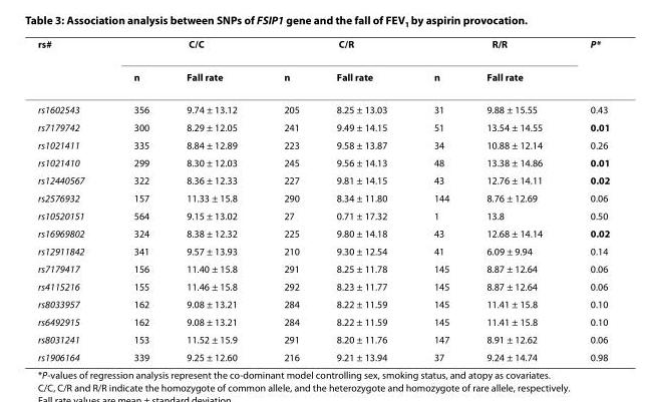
<table><thead><tr><td rowspan="2">rs#</td><td colspan="2">C/C</td><td colspan="2">C/R</td><td colspan="2">R/R</td><td rowspan="2">P*</td></tr><tr><td>n</td><td>Fall rate</td><td>n</td><td>Fall rate</td><td>n</td><td>Fall rate</td></tr></thead><tbody><tr><td>rs1602543</td><td>356</td><td>9.74 ± 13.12</td><td>205</td><td>8.25 ± 13.03</td><td>31</td><td>9.88 ± 15.55</td><td>0.43</td></tr><tr><td>rs7179742</td><td>300</td><td>8.29 ± 12.05</td><td>241</td><td>9.49 ± 14.15</td><td>51</td><td>13.54 ± 14.55</td><td>0.01</td></tr><tr><td>rs1021411</td><td>335</td><td>8.84 ± 12.89</td><td>223</td><td>9.58 ± 13.87</td><td>34</td><td>10.88 ± 12.14</td><td>0.26</td></tr><tr><td>rs1021410</td><td>299</td><td>8.30 ± 12.03</td><td>245</td><td>9.56 ± 14.13</td><td>48</td><td>13.38 ± 14.86</td><td>0.01</td></tr><tr><td>rs12440567</td><td>322</td><td>8.36 ± 12.33</td><td>227</td><td>9.81 ± 14.15</td><td>43</td><td>12.76 ± 14.11</td><td>0.02</td></tr><tr><td>rs2576932</td><td>157</td><td>11.33 ± 15.8</td><td>290</td><td>8.34 ± 11.80</td><td>144</td><td>8.76 ± 12.69</td><td>0.06</td></tr><tr><td>rs10520151</td><td>564</td><td>9.15 ± 13.02</td><td>27</td><td>0.71 ± 17.32</td><td>1</td><td>13.8</td><td>0.50</td></tr><tr><td>rs16969802</td><td>324</td><td>8.38 ± 12.32</td><td>225</td><td>9.80 ± 14.18</td><td>43</td><td>12.68 ± 14.14</td><td>0.02</td></tr><tr><td>rs12911842</td><td>341</td><td>9.57 ± 13.93</td><td>210</td><td>9.30 ± 12.54</td><td>41</td><td>6.09 ± 9.94</td><td>0.14</td></tr><tr><td>rs7179417</td><td>156</td><td>11.40 ± 15.8</td><td>291</td><td>8.25 ± 11.78</td><td>145</td><td>8.87 ± 12.64</td><td>0.06</td></tr><tr><td>rs4115216</td><td>155</td><td>11.46 ± 15.8</td><td>292</td><td>8.23 ± 11.77</td><td>145</td><td>8.87 ± 12.64</td><td>0.06</td></tr><tr><td>rs8033957</td><td>162</td><td>9.08 ± 13.21</td><td>284</td><td>8.22 ± 11.59</td><td>145</td><td>11.41 ± 15.8</td><td>0.10</td></tr><tr><td>rs6492915</td><td>162</td><td>9.08 ± 13.21</td><td>284</td><td>8.22 ± 11.59</td><td>145</td><td>11.41 ± 15.8</td><td>0.10</td></tr><tr><td>rs8031241</td><td>153</td><td>11.52 ± 15.9</td><td>291</td><td>8.20 ± 11.76</td><td>147</td><td>8.91 ± 12.62</td><td>0.06</td></tr><tr><td>rs1906164</td><td>339</td><td>9.25 ± 12.60</td><td>216</td><td>9.21 ± 13.94</td><td>37</td><td>9.24 ± 14.74</td><td>0.98</td></tr></tbody></table>